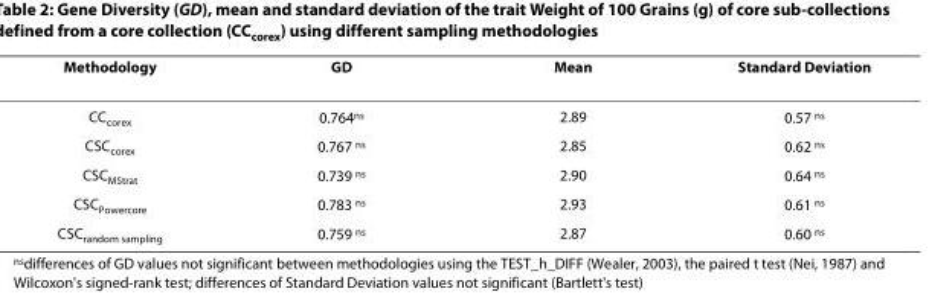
<table><thead><tr><td>Methodology</td><td>GD</td><td>Mean</td><td>Standard Deviation</td></tr></thead><tbody><tr><td>CC<sub>corex</sub></td><td>0.764<sup>ns</sup></td><td>2.89</td><td>0.57 <sup>ns</sup></td></tr><tr><td>CSC<sub>corex</sub></td><td>0.767 <sup>ns</sup></td><td>2.85</td><td>0.62 <sup>ns</sup></td></tr><tr><td>CSC<sub>MStrat</sub></td><td>0.739 <sup>ns</sup></td><td>2.90</td><td>0.64 <sup>ns</sup></td></tr><tr><td>CSC<sub>Powercore</sub></td><td>0.783 <sup>ns</sup></td><td>2.93</td><td>0.61 <sup>ns</sup></td></tr><tr><td>CSC<sub>random sampling</sub></td><td>0.759 <sup>ns</sup></td><td>2.87</td><td>0.60 <sup>ns</sup></td></tr></tbody></table>